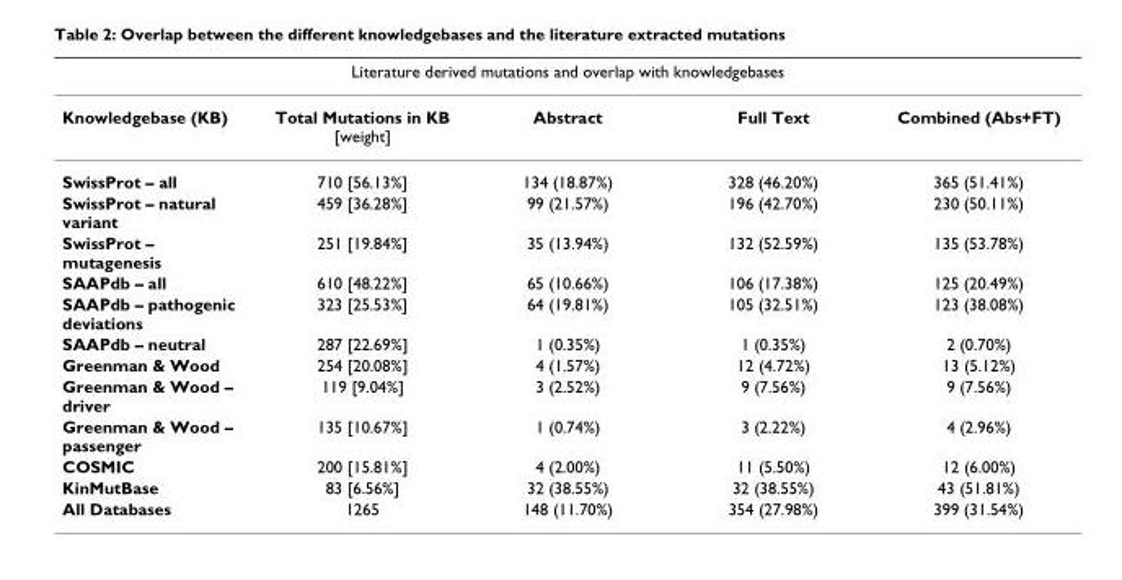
<table><thead><tr><td colspan="5">Literature derived mutations and overlap with knowledgebases</td></tr><tr><td>Knowledgebase (KB)</td><td>Total Mutations in KB [weight]</td><td>Abstract</td><td>Full Text</td><td>Combined (Abs+FT)</td></tr></thead><tbody><tr><td>SwissProt – all</td><td>710 [56.13%]</td><td>134 (18.87%)</td><td>328 (46.20%)</td><td>365 (51.41%)</td></tr><tr><td>SwissProt – natural variant</td><td>459 [36.28%]</td><td>99 (21.57%)</td><td>196 (42.70%)</td><td>230 (50.11%)</td></tr><tr><td>SwissProt – mutagenesis</td><td>251 [19.84%]</td><td>35 (13.94%)</td><td>132 (52.59%)</td><td>135 (53.78%)</td></tr><tr><td>SAAPdb – all</td><td>610 [48.22%]</td><td>65 (10.66%)</td><td>106 (17.38%)</td><td>125 (20.49%)</td></tr><tr><td>SAAPdb – pathogenic deviations</td><td>323 [25.53%]</td><td>64 (19.81%)</td><td>105 (32.51%)</td><td>123 (38.08%)</td></tr><tr><td>SAAPdb – neutral</td><td>287 [22.69%]</td><td>1 (0.35%)</td><td>1 (0.35%)</td><td>2 (0.70%)</td></tr><tr><td>Greenman &amp; Wood</td><td>254 [20.08%]</td><td>4 (1.57%)</td><td>12 (4.72%)</td><td>13 (5.12%)</td></tr><tr><td>Greenman &amp; Wood – driver</td><td>119 [9.04%]</td><td>3 (2.52%)</td><td>9 (7.56%)</td><td>9 (7.56%)</td></tr><tr><td>Greenman &amp; Wood – passenger</td><td>135 [10.67%]</td><td>1 (0.74%)</td><td>3 (2.22%)</td><td>4 (2.96%)</td></tr><tr><td>COSMIC</td><td>200 [15.81%]</td><td>4 (2.00%)</td><td>11 (5.50%)</td><td>12 (6.00%)</td></tr><tr><td>KinMutBase</td><td>83 [6.56%]</td><td>32 (38.55%)</td><td>32 (38.55%)</td><td>43 (51.81%)</td></tr><tr><td>All Databases</td><td>1265</td><td>148 (11.70%)</td><td>354 (27.98%)</td><td>399 (31.54%)</td></tr></tbody></table>